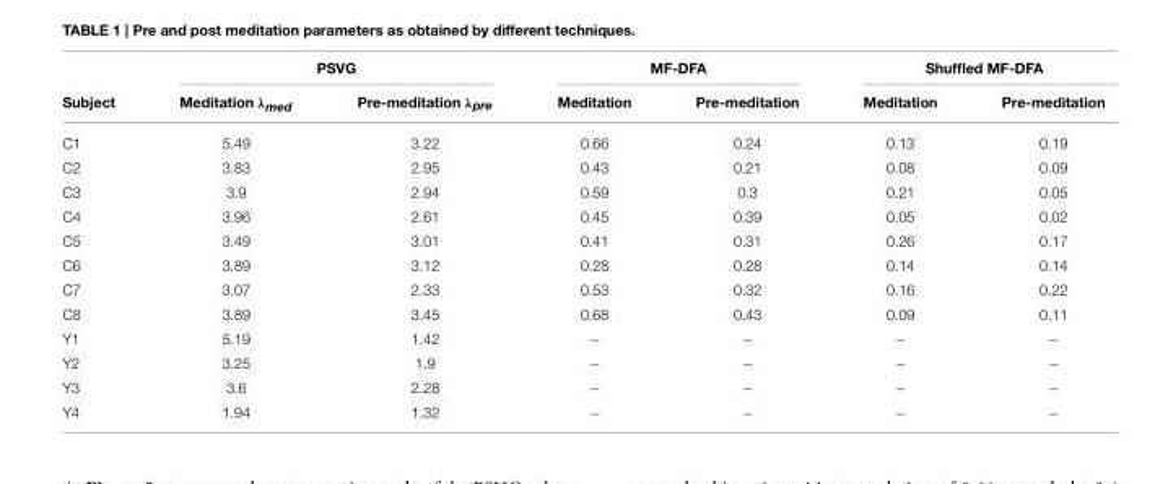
<table><thead><tr><td rowspan="2">Subject</td><td colspan="2">PSVG</td><td colspan="2">MF-DFA</td><td colspan="2">Shuffled MF-DFA</td></tr><tr><td>Meditation λ<sub>med</sub></td><td>Pre-meditation λ<sub>pre</sub></td><td>Meditation</td><td>Pre-meditation</td><td>Meditation</td><td>Pre-meditation</td></tr></thead><tbody><tr><td>C1</td><td>5.49</td><td>3.22</td><td>0.66</td><td>0.24</td><td>0.13</td><td>0.19</td></tr><tr><td>C2</td><td>3.83</td><td>2.95</td><td>0.43</td><td>0.21</td><td>0.08</td><td>0.09</td></tr><tr><td>C3</td><td>3.9</td><td>2.94</td><td>0.59</td><td>0.3</td><td>0.21</td><td>0.05</td></tr><tr><td>C4</td><td>3.96</td><td>2.61</td><td>0.45</td><td>0.39</td><td>0.05</td><td>0.02</td></tr><tr><td>C5</td><td>3.49</td><td>3.01</td><td>0.41</td><td>0.31</td><td>0.26</td><td>0.17</td></tr><tr><td>C6</td><td>3.89</td><td>3.12</td><td>0.28</td><td>0.28</td><td>0.14</td><td>0.14</td></tr><tr><td>C7</td><td>3.07</td><td>2.33</td><td>0.53</td><td>0.32</td><td>0.16</td><td>0.22</td></tr><tr><td>C8</td><td>3.89</td><td>3.45</td><td>0.68</td><td>0.43</td><td>0.09</td><td>0.11</td></tr><tr><td>Y1</td><td>5.19</td><td>1.42</td><td>−</td><td>−</td><td>−</td><td>−</td></tr><tr><td>Y2</td><td>3.25</td><td>1.9</td><td>−</td><td>−</td><td>−</td><td>−</td></tr><tr><td>Y3</td><td>3.6</td><td>2.28</td><td>−</td><td>−</td><td>−</td><td>−</td></tr><tr><td>Y4</td><td>1.94</td><td>1.32</td><td>−</td><td>−</td><td>−</td><td>−</td></tr></tbody></table>